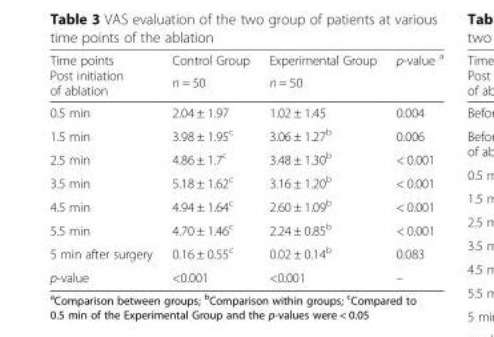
<table><thead><tr><td rowspan="2">Time points Post initiation of ablation</td><td rowspan="2">Control Group n = 50</td><td rowspan="2">Experimental Group n = 50</td><td rowspan="2">p-value <sup>a</sup></td></tr><tr></tr></thead><tbody><tr><td>0.5 min</td><td>2.04 ± 1.97</td><td>1.02 ± 1.45</td><td>0.004</td></tr><tr><td>1.5 min</td><td>3.98 ± 1.95<sup>c</sup></td><td>3.06 ± 1.27<sup>b</sup></td><td>0.006</td></tr><tr><td>2.5 min</td><td>4.86 ± 1.7<sup>c</sup></td><td>3.48 ± 1.30<sup>b</sup></td><td>&lt; 0.001</td></tr><tr><td>3.5 min</td><td>5.18 ± 1.62<sup>c</sup></td><td>3.16 ± 1.20<sup>b</sup></td><td>&lt; 0.001</td></tr><tr><td>4.5 min</td><td>4.94 ± 1.64<sup>c</sup></td><td>2.60 ± 1.09<sup>b</sup></td><td>&lt; 0.001</td></tr><tr><td>5.5 min</td><td>4.70 ± 1.46<sup>c</sup></td><td>2.24 ± 0.85<sup>b</sup></td><td>&lt; 0.001</td></tr><tr><td>5 min after surgery</td><td>0.16 ± 0.55<sup>c</sup></td><td>0.02 ± 0.14<sup>b</sup></td><td>0.083</td></tr><tr><td>p-value</td><td>&lt;0.001</td><td>&lt;0.001</td><td>–</td></tr></tbody></table>